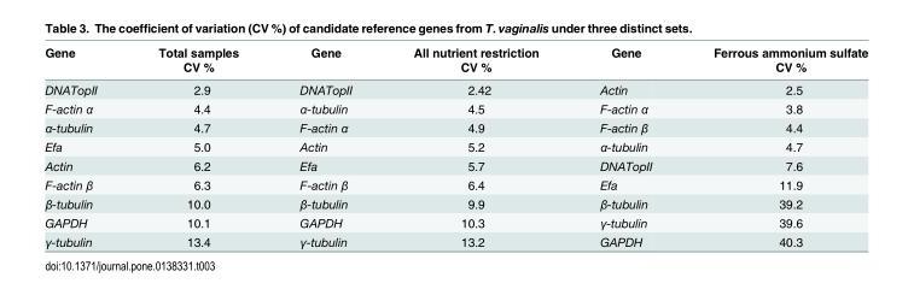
<table><thead><tr><td rowspan="2">Gene</td><td rowspan="2">Total samples CV %</td><td rowspan="2">Gene</td><td rowspan="2">All nutrient restriction CV %</td><td rowspan="2">Gene</td><td rowspan="2">Ferrous ammonium sulfate CV %</td></tr><tr></tr></thead><tbody><tr><td>DNATopII</td><td>2.9</td><td>DNATopII</td><td>2.42</td><td>Actin</td><td>2.5</td></tr><tr><td>F-actin α</td><td>4.4</td><td>α-tubulin</td><td>4.5</td><td>F-actin α</td><td>3.8</td></tr><tr><td>α-tubulin</td><td>4.7</td><td>F-actin α</td><td>4.9</td><td>F-actin β</td><td>4.4</td></tr><tr><td>Efa</td><td>5.0</td><td>Actin</td><td>5.2</td><td>α-tubulin</td><td>4.7</td></tr><tr><td>Actin</td><td>6.2</td><td>Efa</td><td>5.7</td><td>DNATopII</td><td>7.6</td></tr><tr><td>F-actin β</td><td>6.3</td><td>F-actin β</td><td>6.4</td><td>Efa</td><td>11.9</td></tr><tr><td>β-tubulin</td><td>10.0</td><td>β-tubulin</td><td>9.9</td><td>β-tubulin</td><td>39.2</td></tr><tr><td>GAPDH</td><td>10.1</td><td>GAPDH</td><td>10.3</td><td>γ-tubulin</td><td>39.6</td></tr><tr><td>γ-tubulin</td><td>13.4</td><td>γ-tubulin</td><td>13.2</td><td>GAPDH</td><td>40.3</td></tr></tbody></table>